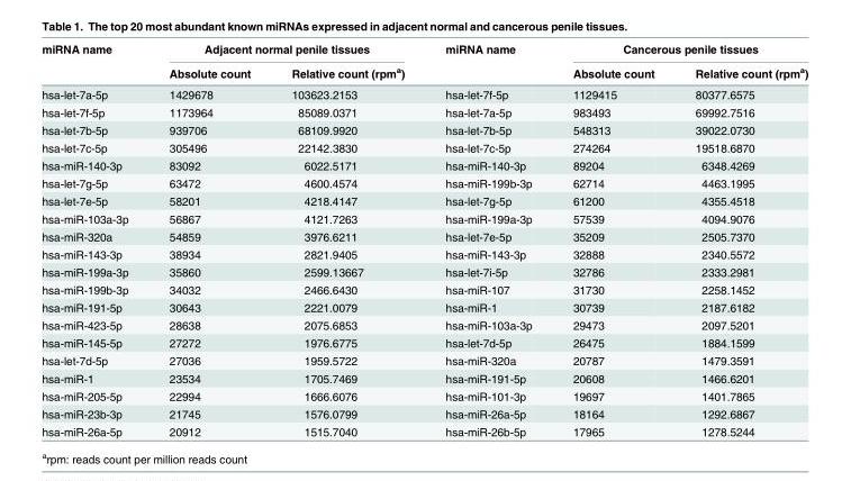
<table><thead><tr><td rowspan="2">miRNA name</td><td colspan="2">Adjacent normal penile tissues</td><td rowspan="2">miRNA name</td><td colspan="2">Cancerous penile tissues</td></tr><tr><td>Absolute count</td><td>Relative count (rpm<sup>a</sup>)</td><td>Absolute count</td><td>Relative count (rpm<sup>a</sup>)</td></tr></thead><tbody><tr><td>hsa-let-7a-5p</td><td>1429678</td><td>103623.2153</td><td>hsa-let-7f-5p</td><td>1129415</td><td>80377.6575</td></tr><tr><td>hsa-let-7f-5p</td><td>1173964</td><td>85089.0371</td><td>hsa-let-7a-5p</td><td>983493</td><td>69992.7516</td></tr><tr><td>hsa-let-7b-5p</td><td>939706</td><td>68109.9920</td><td>hsa-let-7b-5p</td><td>548313</td><td>39022.0730</td></tr><tr><td>hsa-let-7c-5p</td><td>305496</td><td>22142.3830</td><td>hsa-let-7c-5p</td><td>274264</td><td>19518.6870</td></tr><tr><td>hsa-miR-140-3p</td><td>83092</td><td>6022.5171</td><td>hsa-miR-140-3p</td><td>89204</td><td>6348.4269</td></tr><tr><td>hsa-let-7g-5p</td><td>63472</td><td>4600.4574</td><td>hsa-miR-199b-3p</td><td>62714</td><td>4463.1995</td></tr><tr><td>hsa-let-7e-5p</td><td>58201</td><td>4218.4147</td><td>hsa-let-7g-5p</td><td>61200</td><td>4355.4518</td></tr><tr><td>hsa-miR-103a-3p</td><td>56867</td><td>4121.7263</td><td>hsa-miR-199a-3p</td><td>57539</td><td>4094.9076</td></tr><tr><td>hsa-miR-320a</td><td>54859</td><td>3976.6211</td><td>hsa-let-7e-5p</td><td>35209</td><td>2505.7370</td></tr><tr><td>hsa-miR-143-3p</td><td>38934</td><td>2821.9405</td><td>hsa-miR-143-3p</td><td>32888</td><td>2340.5572</td></tr><tr><td>hsa-miR-199a-3p</td><td>35860</td><td>2599.13667</td><td>hsa-let-7i-5p</td><td>32786</td><td>2333.2981</td></tr><tr><td>hsa-miR-199b-3p</td><td>34032</td><td>2466.6430</td><td>hsa-miR-107</td><td>31730</td><td>2258.1452</td></tr><tr><td>hsa-miR-191-5p</td><td>30643</td><td>2221.0079</td><td>hsa-miR-1</td><td>30739</td><td>2187.6182</td></tr><tr><td>hsa-miR-423-5p</td><td>28638</td><td>2075.6853</td><td>hsa-miR-103a-3p</td><td>29473</td><td>2097.5201</td></tr><tr><td>hsa-miR-145-5p</td><td>27272</td><td>1976.6775</td><td>hsa-let-7d-5p</td><td>26475</td><td>1884.1599</td></tr><tr><td>hsa-let-7d-5p</td><td>27036</td><td>1959.5722</td><td>hsa-miR-320a</td><td>20787</td><td>1479.3591</td></tr><tr><td>hsa-miR-1</td><td>23534</td><td>1705.7469</td><td>hsa-miR-191-5p</td><td>20608</td><td>1466.6201</td></tr><tr><td>hsa-miR-205-5p</td><td>22994</td><td>1666.6076</td><td>hsa-miR-101-3p</td><td>19697</td><td>1401.7865</td></tr><tr><td>hsa-miR-23b-3p</td><td>21745</td><td>1576.0799</td><td>hsa-miR-26a-5p</td><td>18164</td><td>1292.6867</td></tr><tr><td>hsa-miR-26a-5p</td><td>20912</td><td>1515.7040</td><td>hsa-miR-26b-5p</td><td>17965</td><td>1278.5244</td></tr></tbody></table>